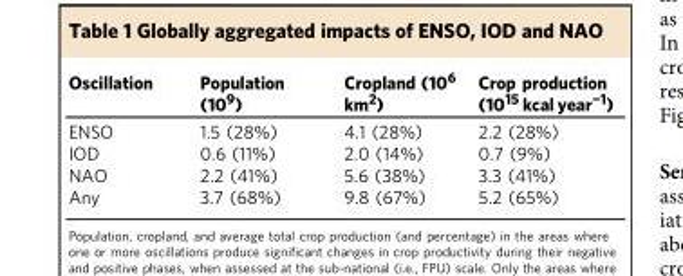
<table><thead><tr><td>Oscillation</td><td>Population (10<sup>9</sup>)</td><td>Cropland (10<sup>6</sup> km<sup>2</sup>)</td><td>Crop production (10<sup>15</sup> kcal year<sup>−1</sup>)</td></tr></thead><tbody><tr><td>ENSO</td><td>1.5 (28%)</td><td>4.1 (28%)</td><td>2.2 (28%)</td></tr><tr><td>IOD</td><td>0.6 (11%)</td><td>2.0 (14%)</td><td>0.7 (9%)</td></tr><tr><td>NAO</td><td>2.2 (41%)</td><td>5.6 (38%)</td><td>3.3 (41%)</td></tr><tr><td>Any</td><td>3.7 (68%)</td><td>9.8 (67%)</td><td>5.2 (65%)</td></tr></tbody></table>